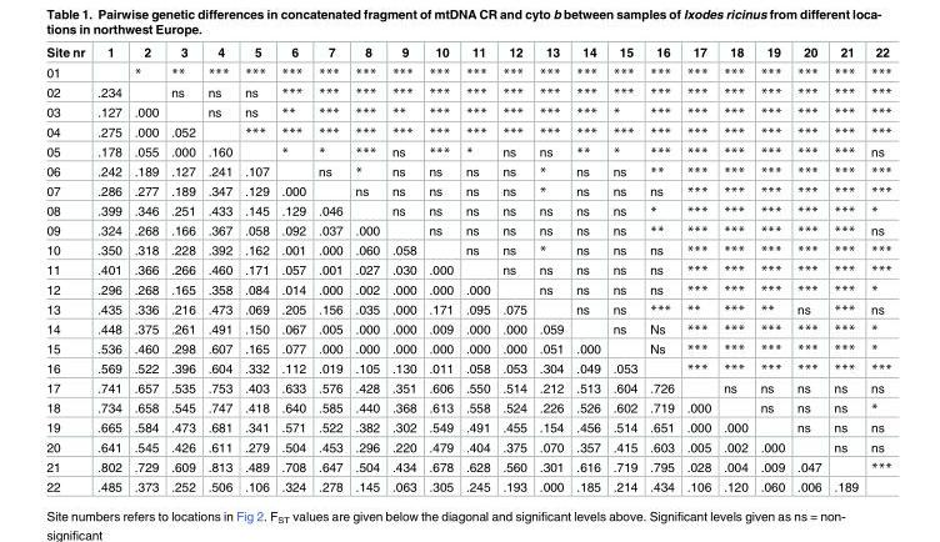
<table><thead><tr><td>Site nr</td><td>1</td><td>2</td><td>3</td><td>4</td><td>5</td><td>6</td><td>7</td><td>8</td><td>9</td><td>10</td><td>11</td><td>12</td><td>13</td><td>14</td><td>15</td><td>16</td><td>17</td><td>18</td><td>19</td><td>20</td><td>21</td><td>22</td></tr></thead><tbody><tr><td>01</td><td></td><td>*</td><td>**</td><td>***</td><td>***</td><td>***</td><td>***</td><td>***</td><td>***</td><td>***</td><td>***</td><td>***</td><td>***</td><td>***</td><td>***</td><td>***</td><td>***</td><td>***</td><td>***</td><td>***</td><td>***</td><td>***</td></tr><tr><td>02</td><td>.234</td><td></td><td>ns</td><td>ns</td><td>ns</td><td>***</td><td>***</td><td>***</td><td>***</td><td>***</td><td>***</td><td>***</td><td>***</td><td>***</td><td>***</td><td>***</td><td>***</td><td>***</td><td>***</td><td>***</td><td>***</td><td>***</td></tr><tr><td>03</td><td>.127</td><td>.000</td><td></td><td>ns</td><td>ns</td><td>**</td><td>***</td><td>***</td><td>**</td><td>***</td><td>***</td><td>***</td><td>***</td><td>***</td><td>*</td><td>***</td><td>***</td><td>***</td><td>***</td><td>***</td><td>***</td><td>***</td></tr><tr><td>04</td><td>.275</td><td>.000</td><td>.052</td><td></td><td>***</td><td>***</td><td>***</td><td>***</td><td>***</td><td>***</td><td>***</td><td>***</td><td>***</td><td>***</td><td>***</td><td>***</td><td>***</td><td>***</td><td>***</td><td>***</td><td>***</td><td>***</td></tr><tr><td>05</td><td>.178</td><td>.055</td><td>.000</td><td>.160</td><td></td><td>*</td><td>*</td><td>***</td><td>ns</td><td>***</td><td>*</td><td>ns</td><td>ns</td><td>**</td><td>*</td><td>***</td><td>***</td><td>***</td><td>***</td><td>***</td><td>***</td><td>ns</td></tr><tr><td>06</td><td>.242</td><td>.189</td><td>.127</td><td>.241</td><td>.107</td><td></td><td>ns</td><td>*</td><td>ns</td><td>ns</td><td>ns</td><td>ns</td><td>*</td><td>ns</td><td>ns</td><td>**</td><td>***</td><td>***</td><td>***</td><td>***</td><td>***</td><td>***</td></tr><tr><td>07</td><td>.286</td><td>.277</td><td>.189</td><td>.347</td><td>.129</td><td>.000</td><td></td><td>ns</td><td>ns</td><td>ns</td><td>ns</td><td>ns</td><td>*</td><td>ns</td><td>ns</td><td>ns</td><td>***</td><td>***</td><td>***</td><td>***</td><td>***</td><td>***</td></tr><tr><td>08</td><td>.399</td><td>.346</td><td>.251</td><td>.433</td><td>.145</td><td>.129</td><td>.046</td><td></td><td>ns</td><td>ns</td><td>ns</td><td>ns</td><td>ns</td><td>ns</td><td>ns</td><td>*</td><td>***</td><td>***</td><td>***</td><td>***</td><td>***</td><td>*</td></tr><tr><td>09</td><td>.324</td><td>.268</td><td>.166</td><td>.367</td><td>.058</td><td>.092</td><td>.037</td><td>.000</td><td></td><td>ns</td><td>ns</td><td>ns</td><td>ns</td><td>ns</td><td>ns</td><td>**</td><td>***</td><td>***</td><td>***</td><td>***</td><td>***</td><td>ns</td></tr><tr><td>10</td><td>.350</td><td>.318</td><td>.228</td><td>.392</td><td>.162</td><td>.001</td><td>.000</td><td>.060</td><td>.058</td><td></td><td>ns</td><td>ns</td><td>*</td><td>ns</td><td>ns</td><td>ns</td><td>***</td><td>***</td><td>***</td><td>***</td><td>***</td><td>***</td></tr><tr><td>11</td><td>.401</td><td>.366</td><td>.266</td><td>.460</td><td>.171</td><td>.057</td><td>.001</td><td>.027</td><td>.030</td><td>.000</td><td></td><td>ns</td><td>ns</td><td>ns</td><td>ns</td><td>ns</td><td>***</td><td>***</td><td>***</td><td>***</td><td>***</td><td>***</td></tr><tr><td>12</td><td>.296</td><td>.268</td><td>.165</td><td>.358</td><td>.084</td><td>.014</td><td>.000</td><td>.002</td><td>.000</td><td>.000</td><td>.000</td><td></td><td>ns</td><td>ns</td><td>ns</td><td>ns</td><td>***</td><td>***</td><td>***</td><td>***</td><td>***</td><td>*</td></tr><tr><td>13</td><td>.435</td><td>.336</td><td>.216</td><td>.473</td><td>.069</td><td>.205</td><td>.156</td><td>.035</td><td>.000</td><td>.171</td><td>.095</td><td>.075</td><td></td><td>ns</td><td>ns</td><td>***</td><td>**</td><td>***</td><td>**</td><td>ns</td><td>***</td><td>ns</td></tr><tr><td>14</td><td>.448</td><td>.375</td><td>.261</td><td>.491</td><td>.150</td><td>.067</td><td>.005</td><td>.000</td><td>.000</td><td>.009</td><td>.000</td><td>.000</td><td>.059</td><td></td><td>ns</td><td>Ns</td><td>***</td><td>***</td><td>***</td><td>***</td><td>***</td><td>*</td></tr><tr><td>15</td><td>.536</td><td>.460</td><td>.298</td><td>.607</td><td>.165</td><td>.077</td><td>.000</td><td>.000</td><td>.000</td><td>.000</td><td>.000</td><td>.000</td><td>.051</td><td>.000</td><td></td><td>Ns</td><td>***</td><td>***</td><td>***</td><td>***</td><td>***</td><td>*</td></tr><tr><td>16</td><td>.569</td><td>.522</td><td>.396</td><td>.604</td><td>.332</td><td>.112</td><td>.019</td><td>.105</td><td>.130</td><td>.011</td><td>.058</td><td>.053</td><td>.304</td><td>.049</td><td>.053</td><td></td><td>***</td><td>***</td><td>***</td><td>***</td><td>***</td><td>***</td></tr><tr><td>17</td><td>.741</td><td>.657</td><td>.535</td><td>.753</td><td>.403</td><td>.633</td><td>.576</td><td>.428</td><td>.351</td><td>.606</td><td>.550</td><td>.514</td><td>.212</td><td>.513</td><td>.604</td><td>.726</td><td></td><td>ns</td><td>ns</td><td>ns</td><td>ns</td><td>ns</td></tr><tr><td>18</td><td>.734</td><td>.658</td><td>.545</td><td>.747</td><td>.418</td><td>.640</td><td>.585</td><td>.440</td><td>.368</td><td>.613</td><td>.558</td><td>.524</td><td>.226</td><td>.526</td><td>.602</td><td>.719</td><td>.000</td><td></td><td>ns</td><td>ns</td><td>ns</td><td>*</td></tr><tr><td>19</td><td>.665</td><td>.584</td><td>.473</td><td>.681</td><td>.341</td><td>.571</td><td>.522</td><td>.382</td><td>.302</td><td>.549</td><td>.491</td><td>.455</td><td>.154</td><td>.456</td><td>.514</td><td>.651</td><td>.000</td><td>.000</td><td></td><td>ns</td><td>ns</td><td>ns</td></tr><tr><td>20</td><td>.641</td><td>.545</td><td>.426</td><td>.611</td><td>.279</td><td>.504</td><td>.453</td><td>.296</td><td>.220</td><td>.479</td><td>.404</td><td>.375</td><td>.070</td><td>.357</td><td>.415</td><td>.603</td><td>.005</td><td>.002</td><td>.000</td><td></td><td>ns</td><td>ns</td></tr><tr><td>21</td><td>.802</td><td>.729</td><td>.609</td><td>.813</td><td>.489</td><td>.708</td><td>.647</td><td>.504</td><td>.434</td><td>.678</td><td>.628</td><td>.560</td><td>.301</td><td>.616</td><td>.719</td><td>.795</td><td>.028</td><td>.004</td><td>.009</td><td>.047</td><td></td><td>***</td></tr><tr><td>22</td><td>.485</td><td>.373</td><td>.252</td><td>.506</td><td>.106</td><td>.324</td><td>.278</td><td>.145</td><td>.063</td><td>.305</td><td>.245</td><td>.193</td><td>.000</td><td>.185</td><td>.214</td><td>.434</td><td>.106</td><td>.120</td><td>.060</td><td>.006</td><td>.189</td><td></td></tr></tbody></table>